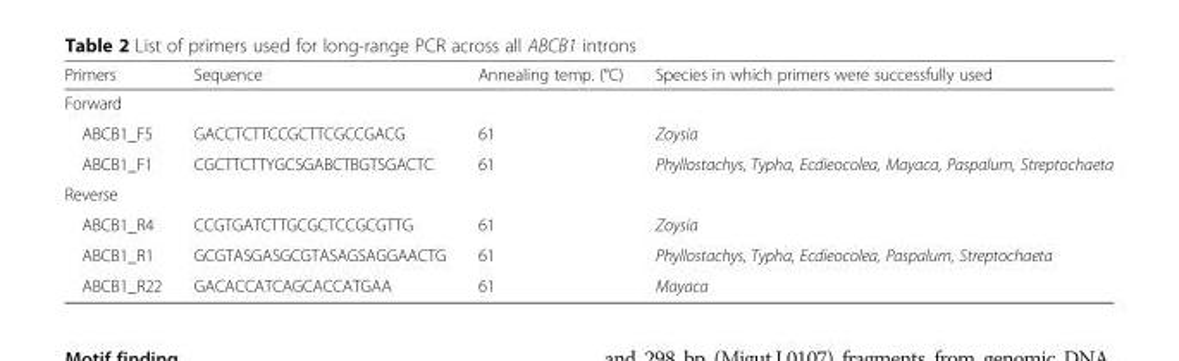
<table><thead><tr><td>Primers</td><td>Sequence</td><td>Annealing temp. (°C)</td><td>Species in which primers were successfully used</td></tr></thead><tbody><tr><td colspan="4">Forward</td></tr><tr><td>ABCB1_F5</td><td>GACCTCTTCCGCTTCGCCGACG</td><td>61</td><td>Zoysia</td></tr><tr><td>ABCB1_F1</td><td>CGCTTCTTYGCSGABCTBGTSGACTC</td><td>61</td><td>Phyllostachys, Typha, Ecdieocolea, Mayaca, Paspalum, Streptochaeta</td></tr><tr><td colspan="4">Reverse</td></tr><tr><td>ABCB1_R4</td><td>CCGTGATCTTGCGCTCCGCGTTG</td><td>61</td><td>Zoysia</td></tr><tr><td>ABCB1_R1</td><td>GCGTASGASGCGTASAGSAGGAACTG</td><td>61</td><td>Phyllostachys, Typha, Ecdieocolea, Paspalum, Streptochaeta</td></tr><tr><td>ABCB1_R22</td><td>GACACCATCAGCACCATGAA</td><td>61</td><td>Mayaca</td></tr></tbody></table>